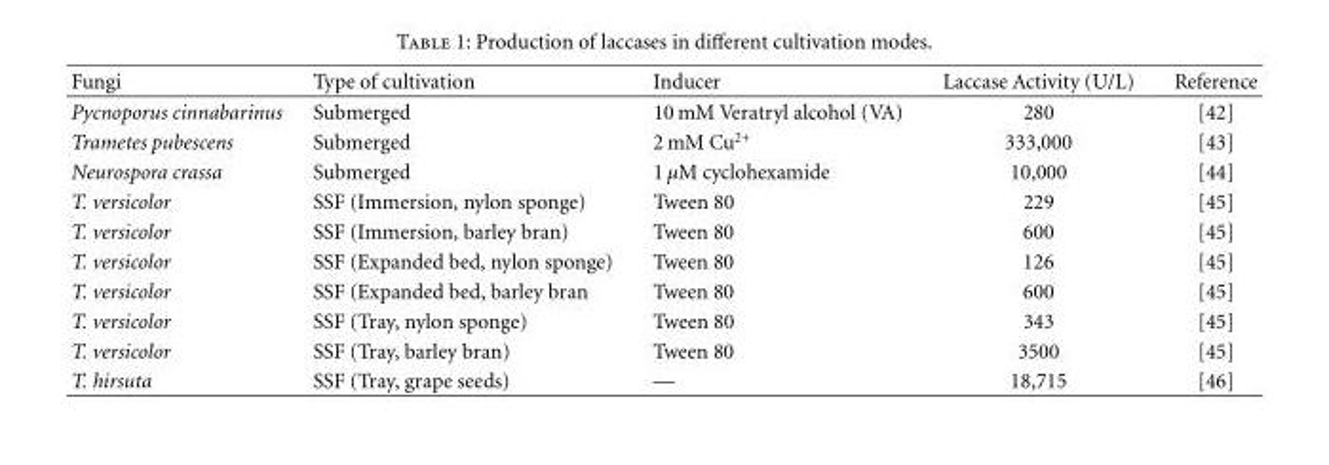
<table><thead><tr><td>Fungi</td><td>Type of cultivation</td><td>Inducer</td><td>Laccase Activity (U/L)</td><td>Reference</td></tr></thead><tbody><tr><td>Pycnoporus cinnabarinus</td><td>Submerged</td><td>10 mM Veratryl alcohol (VA)</td><td>280</td><td>[42]</td></tr><tr><td>Trametes pubescens</td><td>Submerged</td><td>2 mM Cu<sup>2+</sup></td><td>333,000</td><td>[43]</td></tr><tr><td>Neurospora crassa</td><td>Submerged</td><td>1 μM cyclohexamide</td><td>10,000</td><td>[44]</td></tr><tr><td>T. versicolor</td><td>SSF (Immersion, nylon sponge)</td><td>Tween 80</td><td>229</td><td>[45]</td></tr><tr><td>T. versicolor</td><td>SSF (Immersion, barley bran)</td><td>Tween 80</td><td>600</td><td>[45]</td></tr><tr><td>T. versicolor</td><td>SSF (Expanded bed, nylon sponge)</td><td>Tween 80</td><td>126</td><td>[45]</td></tr><tr><td>T. versicolor</td><td>SSF (Expanded bed, barley bran</td><td>Tween 80</td><td>600</td><td>[45]</td></tr><tr><td>T. versicolor</td><td>SSF (Tray, nylon sponge)</td><td>Tween 80</td><td>343</td><td>[45]</td></tr><tr><td>T. versicolor</td><td>SSF (Tray, barley bran)</td><td>Tween 80</td><td>3500</td><td>[45]</td></tr><tr><td>T. hirsuta</td><td>SSF (Tray, grape seeds)</td><td>—</td><td>18,715</td><td>[46]</td></tr></tbody></table>